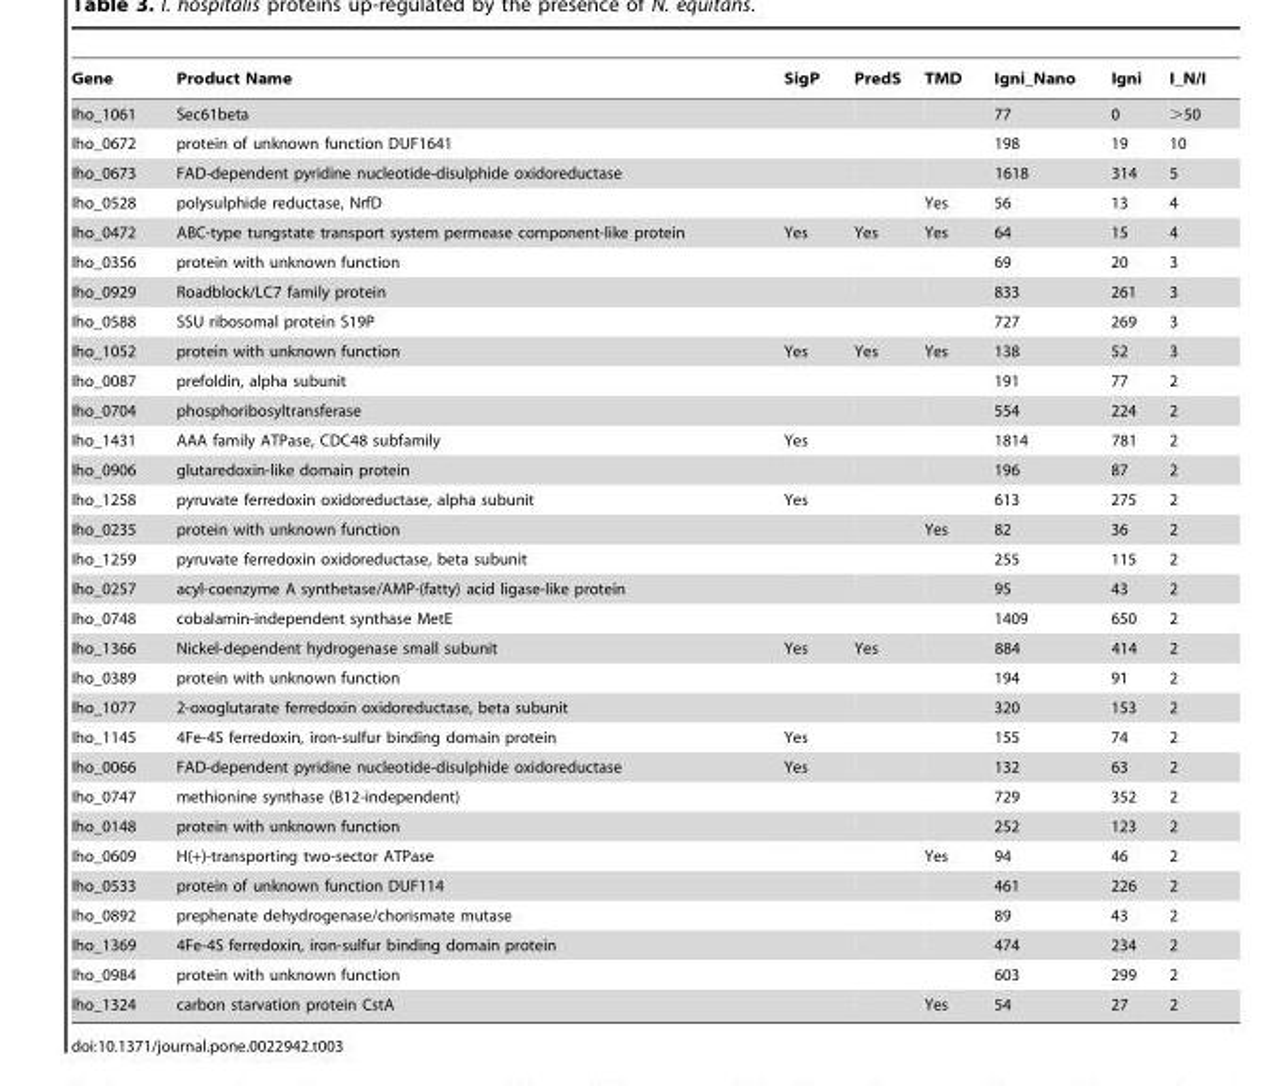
<table><thead><tr><td>Gene</td><td>Product Name</td><td>SigP</td><td>PredS</td><td>TMD</td><td>Igni_Nano</td><td>Igni</td><td>I_N/I</td></tr></thead><tbody><tr><td>Iho_1061</td><td>Sec61beta</td><td></td><td></td><td></td><td>77</td><td>0</td><td>&gt;50</td></tr><tr><td>Iho_0672</td><td>protein of unknown function DUF1641</td><td></td><td></td><td></td><td>198</td><td>19</td><td>10</td></tr><tr><td>Iho_0673</td><td>FAD-dependent pyridine nucleotide-disulphide oxidoreductase</td><td></td><td></td><td></td><td>1618</td><td>314</td><td>5</td></tr><tr><td>Iho_0528</td><td>polysulphide reductase, NrfD</td><td></td><td></td><td>Yes</td><td>56</td><td>13</td><td>4</td></tr><tr><td>Iho_0472</td><td>ABC-type tungstate transport system permease component-like protein</td><td>Yes</td><td>Yes</td><td>Yes</td><td>64</td><td>15</td><td>4</td></tr><tr><td>Iho_0356</td><td>protein with unknown function</td><td></td><td></td><td></td><td>69</td><td>20</td><td>3</td></tr><tr><td>Iho_0929</td><td>Roadblock/LC7 family protein</td><td></td><td></td><td></td><td>833</td><td>261</td><td>3</td></tr><tr><td>Iho_0588</td><td>SSU ribosomal protein S19P</td><td></td><td></td><td></td><td>727</td><td>269</td><td>3</td></tr><tr><td>Iho_1052</td><td>protein with unknown function</td><td>Yes</td><td>Yes</td><td>Yes</td><td>138</td><td>52</td><td>3</td></tr><tr><td>Iho_0087</td><td>prefoldin, alpha subunit</td><td></td><td></td><td></td><td>191</td><td>77</td><td>2</td></tr><tr><td>Iho_0704</td><td>phosphoribosyltransferase</td><td></td><td></td><td></td><td>554</td><td>224</td><td>2</td></tr><tr><td>Iho_1431</td><td>AAA family ATPase, CDC48 subfamily</td><td>Yes</td><td></td><td></td><td>1814</td><td>781</td><td>2</td></tr><tr><td>Iho_0906</td><td>glutaredoxin-like domain protein</td><td></td><td></td><td></td><td>196</td><td>87</td><td>2</td></tr><tr><td>Iho_1258</td><td>pyruvate ferredoxin oxidoreductase, alpha subunit</td><td>Yes</td><td></td><td></td><td>613</td><td>275</td><td>2</td></tr><tr><td>Iho_0235</td><td>protein with unknown function</td><td></td><td></td><td>Yes</td><td>82</td><td>36</td><td>2</td></tr><tr><td>Iho_1259</td><td>pyruvate ferredoxin oxidoreductase, beta subunit</td><td></td><td></td><td></td><td>255</td><td>115</td><td>2</td></tr><tr><td>Iho_0257</td><td>acyl-coenzyme A synthetase/AMP-(fatty) acid ligase-like protein</td><td></td><td></td><td></td><td>95</td><td>43</td><td>2</td></tr><tr><td>Iho_0748</td><td>cobalamin-independent synthase MetE</td><td></td><td></td><td></td><td>1409</td><td>650</td><td>2</td></tr><tr><td>Iho_1366</td><td>Nickel-dependent hydrogenase small subunit</td><td>Yes</td><td>Yes</td><td></td><td>884</td><td>414</td><td>2</td></tr><tr><td>Iho_0389</td><td>protein with unknown function</td><td></td><td></td><td></td><td>194</td><td>91</td><td>2</td></tr><tr><td>Iho_1077</td><td>2-oxoglutarate ferredoxin oxidoreductase, beta subunit</td><td></td><td></td><td></td><td>320</td><td>153</td><td>2</td></tr><tr><td>Iho_1145</td><td>4Fe-4S ferredoxin, iron-sulfur binding domain protein</td><td>Yes</td><td></td><td></td><td>155</td><td>74</td><td>2</td></tr><tr><td>Iho_0066</td><td>FAD-dependent pyridine nucleotide-disulphide oxidoreductase</td><td>Yes</td><td></td><td></td><td>132</td><td>63</td><td>2</td></tr><tr><td>Iho_0747</td><td>methionine synthase (B12-independent)</td><td></td><td></td><td></td><td>729</td><td>352</td><td>2</td></tr><tr><td>Iho_0148</td><td>protein with unknown function</td><td></td><td></td><td></td><td>252</td><td>123</td><td>2</td></tr><tr><td>Iho_0609</td><td>H(+)-transporting two-sector ATPase</td><td></td><td></td><td>Yes</td><td>94</td><td>46</td><td>2</td></tr><tr><td>Iho_0533</td><td>protein of unknown function DUF114</td><td></td><td></td><td></td><td>461</td><td>226</td><td>2</td></tr><tr><td>Iho_0892</td><td>prephenate dehydrogenase/chorismate mutase</td><td></td><td></td><td></td><td>89</td><td>43</td><td>2</td></tr><tr><td>Iho_1369</td><td>4Fe-4S ferredoxin, iron-sulfur binding domain protein</td><td></td><td></td><td></td><td>474</td><td>234</td><td>2</td></tr><tr><td>Iho_0984</td><td>protein with unknown function</td><td></td><td></td><td></td><td>603</td><td>299</td><td>2</td></tr><tr><td>Iho_1324</td><td>carbon starvation protein CstA</td><td></td><td></td><td>Yes</td><td>54</td><td>27</td><td>2</td></tr></tbody></table>